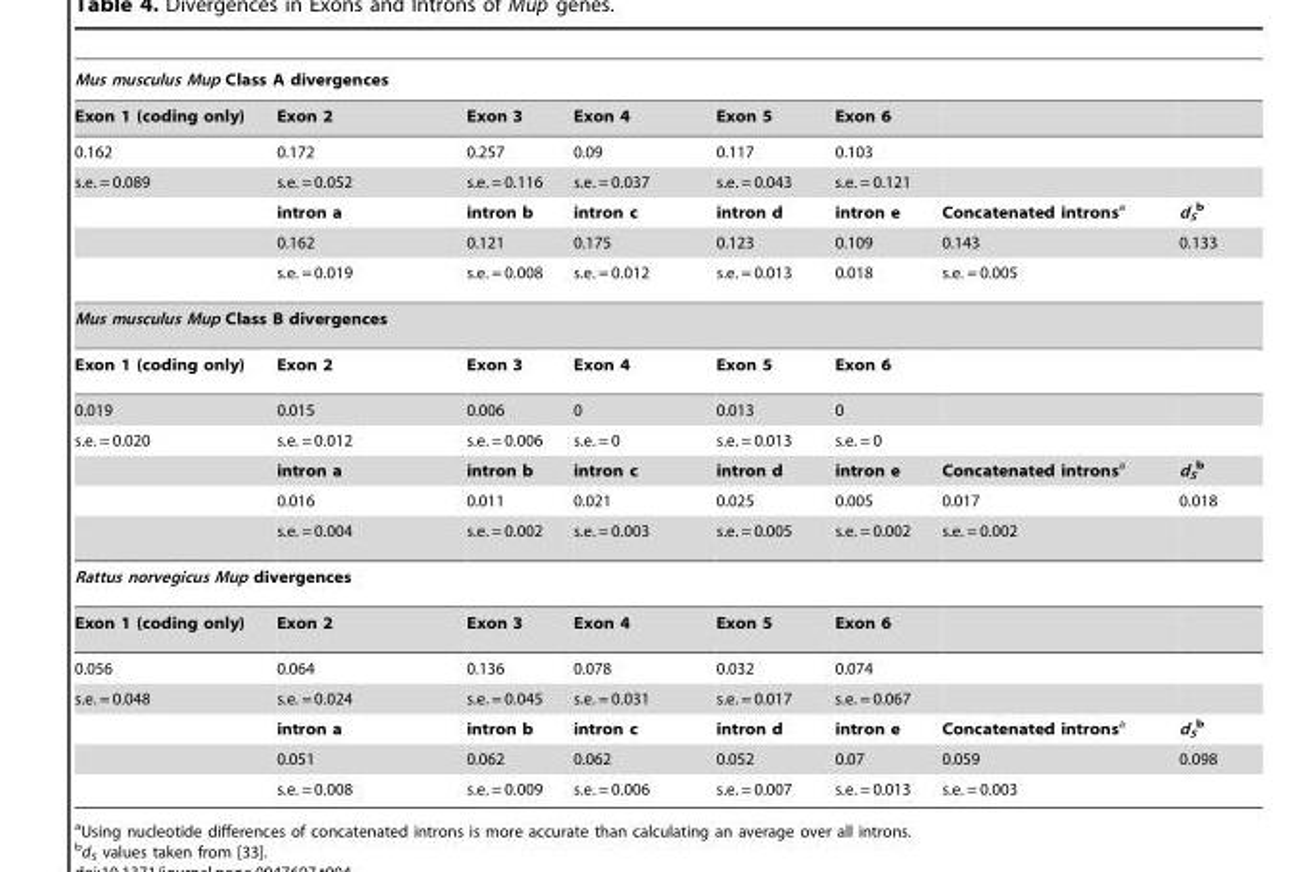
<table><thead><tr><td colspan="8">Mus musculus Mup Class A divergences</td></tr><tr><td>Exon 1 (coding only)</td><td>Exon 2</td><td>Exon 3</td><td>Exon 4</td><td>Exon 5</td><td>Exon 6</td><td></td><td></td></tr></thead><tbody><tr><td>0.162</td><td>0.172</td><td>0.257</td><td>0.09</td><td>0.117</td><td>0.103</td><td></td><td></td></tr><tr><td rowspan="4">s.e. = 0.089</td><td>s.e. = 0.052</td><td>s.e. = 0.116</td><td>s.e. = 0.037</td><td>s.e. = 0.043</td><td>s.e. = 0.121</td><td></td><td></td></tr><tr><td>intron a</td><td>intron b</td><td>intron c</td><td>intron d</td><td>intron e</td><td>Concatenated intronsa</td><td>d<sub>S</sub> b</td></tr><tr><td>0.162</td><td>0.121</td><td>0.175</td><td>0.123</td><td>0.109</td><td>0.143</td><td>0.133</td></tr><tr><td>s.e. = 0.019</td><td>s.e. = 0.008</td><td>s.e. = 0.012</td><td>s.e. = 0.013</td><td>0.018</td><td>s.e. = 0.005</td><td></td></tr><tr><td colspan="8">Mus musculus Mup Class B divergences</td></tr><tr><td>Exon 1 (coding only)</td><td>Exon 2</td><td>Exon 3</td><td>Exon 4</td><td>Exon 5</td><td>Exon 6</td><td></td><td></td></tr><tr><td>0.019</td><td>0.015</td><td>0.006</td><td>0</td><td>0.013</td><td>0</td><td></td><td></td></tr><tr><td rowspan="4">s.e. = 0.020</td><td>s.e. = 0.012</td><td>s.e. = 0.006</td><td>s.e. = 0</td><td>s.e. = 0.013</td><td>s.e. = 0</td><td></td><td></td></tr><tr><td>intron a</td><td>intron b</td><td>intron c</td><td>intron d</td><td>intron e</td><td>Concatenated intronsa</td><td>d<sub>S</sub> b</td></tr><tr><td>0.016</td><td>0.011</td><td>0.021</td><td>0.025</td><td>0.005</td><td>0.017</td><td>0.018</td></tr><tr><td>s.e. = 0.004</td><td>s.e. = 0.002</td><td>s.e. = 0.003</td><td>s.e. = 0.005</td><td>s.e. = 0.002</td><td>s.e. = 0.002</td><td></td></tr><tr><td colspan="8">Rattus norvegicus Mup divergences</td></tr><tr><td>Exon 1 (coding only)</td><td>Exon 2</td><td>Exon 3</td><td>Exon 4</td><td>Exon 5</td><td>Exon 6</td><td></td><td></td></tr><tr><td>0.056</td><td>0.064</td><td>0.136</td><td>0.078</td><td>0.032</td><td>0.074</td><td></td><td></td></tr><tr><td rowspan="4">s.e. = 0.048</td><td>s.e. = 0.024</td><td>s.e. = 0.045</td><td>s.e. = 0.031</td><td>s.e. = 0.017</td><td>s.e. = 0.067</td><td></td><td></td></tr><tr><td>intron a</td><td>intron b</td><td>intron c</td><td>intron d</td><td>intron e</td><td>Concatenated intronsa</td><td>d<sub>S</sub> b</td></tr><tr><td>0.051</td><td>0.062</td><td>0.062</td><td>0.052</td><td>0.07</td><td>0.059</td><td>0.098</td></tr><tr><td>s.e. = 0.008</td><td>s.e. = 0.009</td><td>s.e. = 0.006</td><td>s.e. = 0.007</td><td>s.e. = 0.013</td><td>s.e. = 0.003</td><td></td></tr></tbody></table>